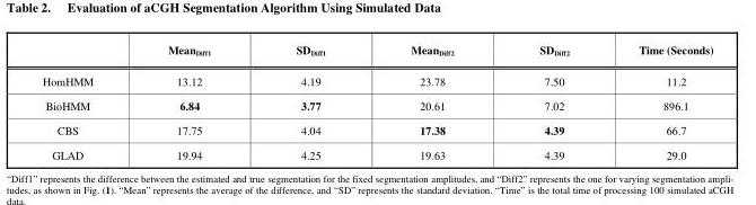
<table><thead><tr><td></td><td>Mean<sub>Diff1</sub></td><td>SD<sub>Diff1</sub></td><td>Mean<sub>Diff2</sub></td><td>SD<sub>Diff2</sub></td><td>Time (Seconds)</td></tr></thead><tbody><tr><td>HomHMM</td><td>13.12</td><td>4.19</td><td>23.78</td><td>7.50</td><td>11.2</td></tr><tr><td>BioHMM</td><td>6.84</td><td>3.77</td><td>20.61</td><td>7.02</td><td>896.1</td></tr><tr><td>CBS</td><td>17.75</td><td>4.04</td><td>17.38</td><td>4.39</td><td>66.7</td></tr><tr><td>GLAD</td><td>19.94</td><td>4.25</td><td>19.63</td><td>4.39</td><td>29.0</td></tr></tbody></table>